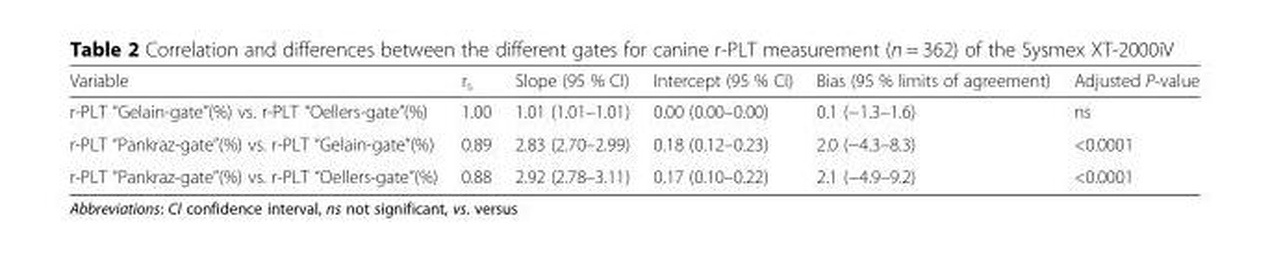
<table><thead><tr><td>Variable</td><td>r<sub>s</sub></td><td>Slope (95 % CI)</td><td>Intercept (95 % CI)</td><td>Bias (95 % limits of agreement)</td><td>Adjusted P-value</td></tr></thead><tbody><tr><td>r-PLT “Gelain-gate”(%) vs. r-PLT “Oellers-gate”(%)</td><td>1.00</td><td>1.01 (1.01–1.01)</td><td>0.00 (0.00–0.00)</td><td>0.1 (−1.3–1.6)</td><td>ns</td></tr><tr><td>r-PLT “Pankraz-gate”(%) vs. r-PLT “Gelain-gate”(%)</td><td>0.89</td><td>2.83 (2.70–2.99)</td><td>0.18 (0.12–0.23)</td><td>2.0 (−4.3–8.3)</td><td>&lt;0.0001</td></tr><tr><td>r-PLT “Pankraz-gate”(%) vs. r-PLT “Oellers-gate”(%)</td><td>0.88</td><td>2.92 (2.78–3.11)</td><td>0.17 (0.10–0.22)</td><td>2.1 (−4.9–9.2)</td><td>&lt;0.0001</td></tr></tbody></table>